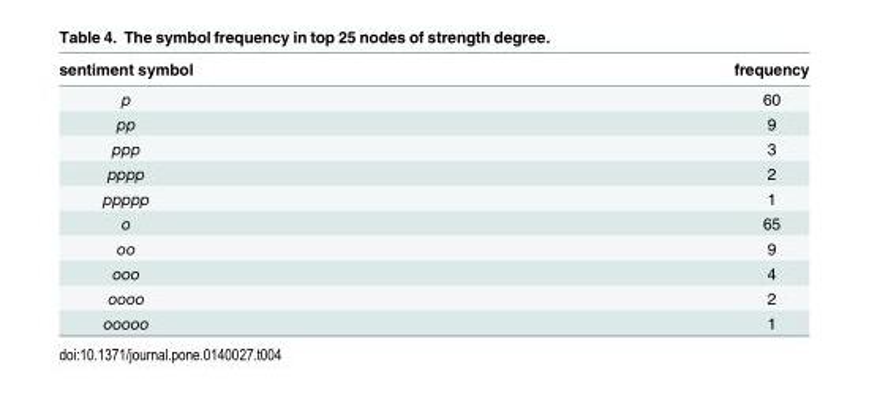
<table><thead><tr><td>sentiment symbol</td><td>frequency</td></tr></thead><tbody><tr><td>p</td><td>60</td></tr><tr><td>pp</td><td>9</td></tr><tr><td>ppp</td><td>3</td></tr><tr><td>pppp</td><td>2</td></tr><tr><td>ppppp</td><td>1</td></tr><tr><td>o</td><td>65</td></tr><tr><td>oo</td><td>9</td></tr><tr><td>ooo</td><td>4</td></tr><tr><td>oooo</td><td>2</td></tr><tr><td>ooooo</td><td>1</td></tr></tbody></table>